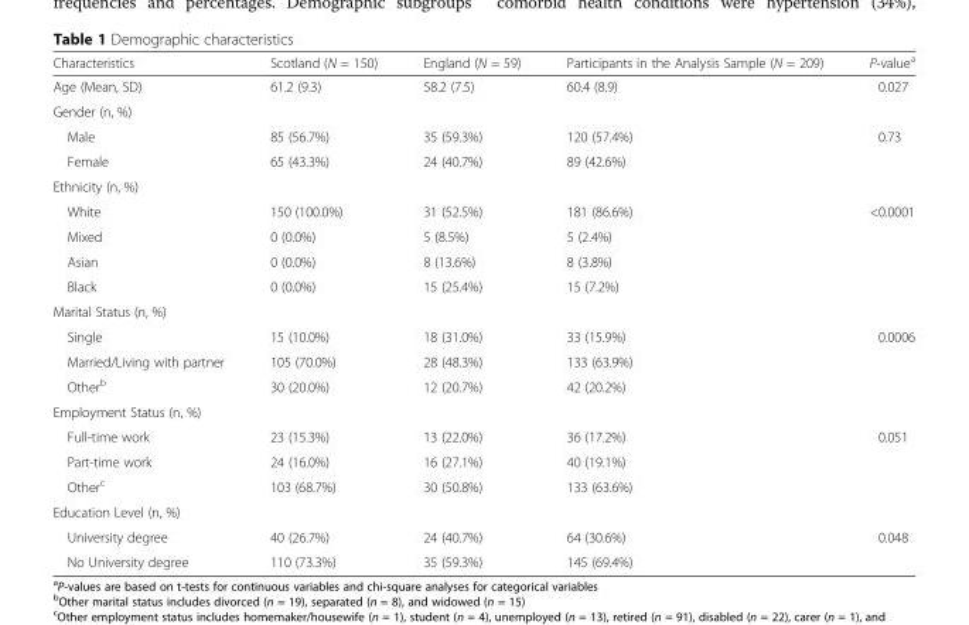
<table><thead><tr><td>Characteristics</td><td>Scotland (N = 150)</td><td>England (N = 59)</td><td>Participants in the Analysis Sample (N = 209)</td><td>P-value<sup>a</sup></td></tr></thead><tbody><tr><td>Age (Mean, SD)</td><td>61.2 (9.3)</td><td>58.2 (7.5)</td><td>60.4 (8.9)</td><td>0.027</td></tr><tr><td colspan="5">Gender (n, %)</td></tr><tr><td>Male</td><td>85 (56.7%)</td><td>35 (59.3%)</td><td>120 (57.4%)</td><td rowspan="2">0.73</td></tr><tr><td>Female</td><td>65 (43.3%)</td><td>24 (40.7%)</td><td>89 (42.6%)</td></tr><tr><td colspan="5">Ethnicity (n, %)</td></tr><tr><td>White</td><td>150 (100.0%)</td><td>31 (52.5%)</td><td>181 (86.6%)</td><td rowspan="4">&lt;0.0001</td></tr><tr><td>Mixed</td><td>0 (0.0%)</td><td>5 (8.5%)</td><td>5 (2.4%)</td></tr><tr><td>Asian</td><td>0 (0.0%)</td><td>8 (13.6%)</td><td>8 (3.8%)</td></tr><tr><td>Black</td><td>0 (0.0%)</td><td>15 (25.4%)</td><td>15 (7.2%)</td></tr><tr><td colspan="5">Marital Status (n, %)</td></tr><tr><td>Single</td><td>15 (10.0%)</td><td>18 (31.0%)</td><td>33 (15.9%)</td><td rowspan="3">0.0006</td></tr><tr><td>Married/Living with partner</td><td>105 (70.0%)</td><td>28 (48.3%)</td><td>133 (63.9%)</td></tr><tr><td>Other<sup>b</sup></td><td>30 (20.0%)</td><td>12 (20.7%)</td><td>42 (20.2%)</td></tr><tr><td colspan="5">Employment Status (n, %)</td></tr><tr><td>Full-time work</td><td>23 (15.3%)</td><td>13 (22.0%)</td><td>36 (17.2%)</td><td rowspan="3">0.051</td></tr><tr><td>Part-time work</td><td>24 (16.0%)</td><td>16 (27.1%)</td><td>40 (19.1%)</td></tr><tr><td>Other<sup>c</sup></td><td>103 (68.7%)</td><td>30 (50.8%)</td><td>133 (63.6%)</td></tr><tr><td colspan="5">Education Level (n, %)</td></tr><tr><td>University degree</td><td>40 (26.7%)</td><td>24 (40.7%)</td><td>64 (30.6%)</td><td rowspan="2">0.048</td></tr><tr><td>No University degree</td><td>110 (73.3%)</td><td>35 (59.3%)</td><td>145 (69.4%)</td></tr></tbody></table>